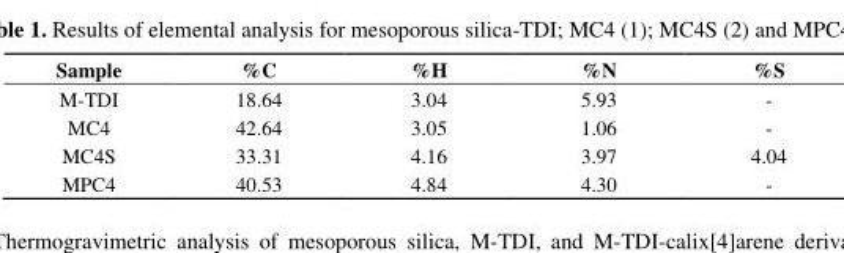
<table><thead><tr><td>Sample</td><td>%C</td><td>%H</td><td>%N</td><td>%S</td></tr></thead><tbody><tr><td>M-TDI</td><td>18.64</td><td>3.04</td><td>5.93</td><td>-</td></tr><tr><td>MC4</td><td>42.64</td><td>3.05</td><td>1.06</td><td>-</td></tr><tr><td>MC4S</td><td>33.31</td><td>4.16</td><td>3.97</td><td>4.04</td></tr><tr><td>MPC4</td><td>40.53</td><td>4.84</td><td>4.30</td><td>-</td></tr></tbody></table>